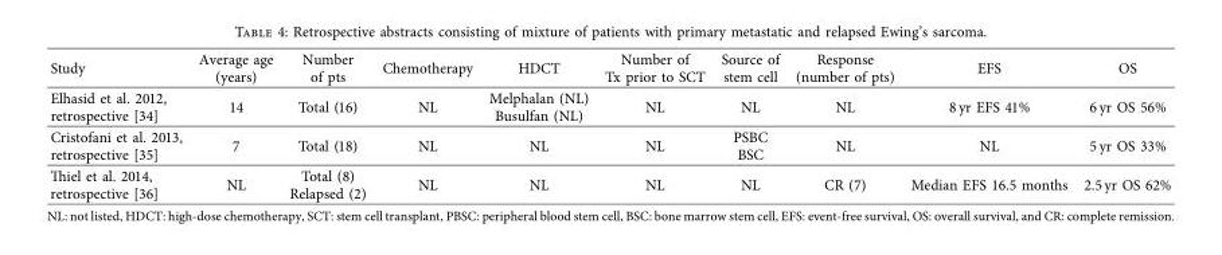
<table><thead><tr><td>Study</td><td>Average age (years)</td><td>Number of pts</td><td>Chemotherapy</td><td>HDCT</td><td>Number of Tx prior to SCT</td><td>Source of stem cell</td><td>Response (number of pts)</td><td>EFS</td><td>OS</td></tr></thead><tbody><tr><td>Elhasid et al. 2012, retrospective [34]</td><td>14</td><td>Total (16)</td><td>NL</td><td>Melphalan (NL) Busulfan (NL)</td><td>NL</td><td>NL</td><td>NL</td><td>8 yr EFS 41%</td><td>6 yr OS 56%</td></tr><tr><td>Cristofani et al. 2013, retrospective [35]</td><td>7</td><td>Total (18)</td><td>NL</td><td>NL</td><td>NL</td><td>PSBC BSC</td><td>NL</td><td>NL</td><td>5 yr OS 33%</td></tr><tr><td>Tiel et al. 2014, retrospective [36]</td><td>NL</td><td>Total (8) Relapsed (2)</td><td>NL</td><td>NL</td><td>NL</td><td>NL</td><td>CR (7)</td><td>Median EFS 16.5 months</td><td>2.5 yr OS 62%</td></tr></tbody></table>